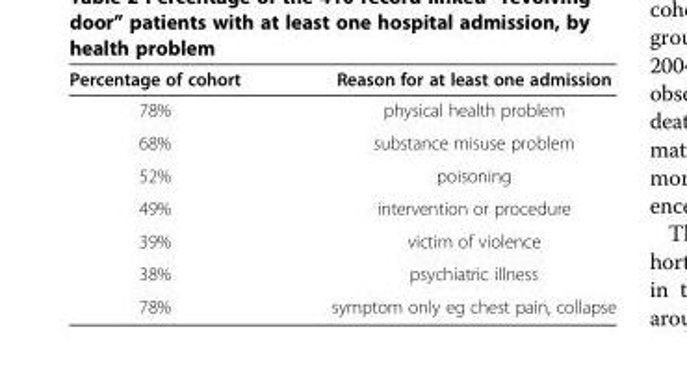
<table><thead><tr><td>Percentage of cohort</td><td>Reason for at least one admission</td></tr></thead><tbody><tr><td>78%</td><td>physical health problem</td></tr><tr><td>68%</td><td>substance misuse problem</td></tr><tr><td>52%</td><td>poisoning</td></tr><tr><td>49%</td><td>intervention or procedure</td></tr><tr><td>39%</td><td>victim of violence</td></tr><tr><td>38%</td><td>psychiatric illness</td></tr><tr><td>78%</td><td>symptom only eg chest pain, collapse</td></tr></tbody></table>